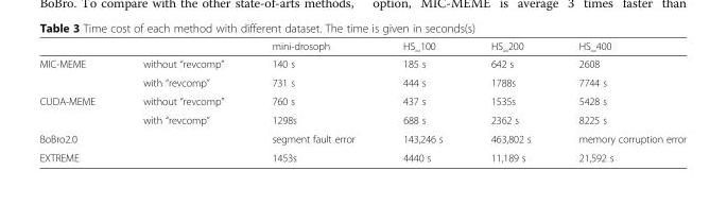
<table><thead><tr><td></td><td></td><td>mini-drosoph</td><td>HS_100</td><td>HS_200</td><td>HS_400</td></tr></thead><tbody><tr><td rowspan="2">MIC-MEME</td><td>without “revcomp”</td><td>140 s</td><td>185 s</td><td>642 s</td><td>2608</td></tr><tr><td>with “revcomp”</td><td>731 s</td><td>444 s</td><td>1788s</td><td>7744 s</td></tr><tr><td rowspan="2">CUDA-MEME</td><td>without “revcomp”</td><td>760 s</td><td>437 s</td><td>1535s</td><td>5428 s</td></tr><tr><td>with “revcomp”</td><td>1298s</td><td>688 s</td><td>2362 s</td><td>8225 s</td></tr><tr><td colspan="2">BoBro2.0</td><td>segment fault error</td><td>143,246 s</td><td>463,802 s</td><td>memory corruption error</td></tr><tr><td colspan="2">EXTREME</td><td>1453s</td><td>4440 s</td><td>11,189 s</td><td>21,592 s</td></tr></tbody></table>